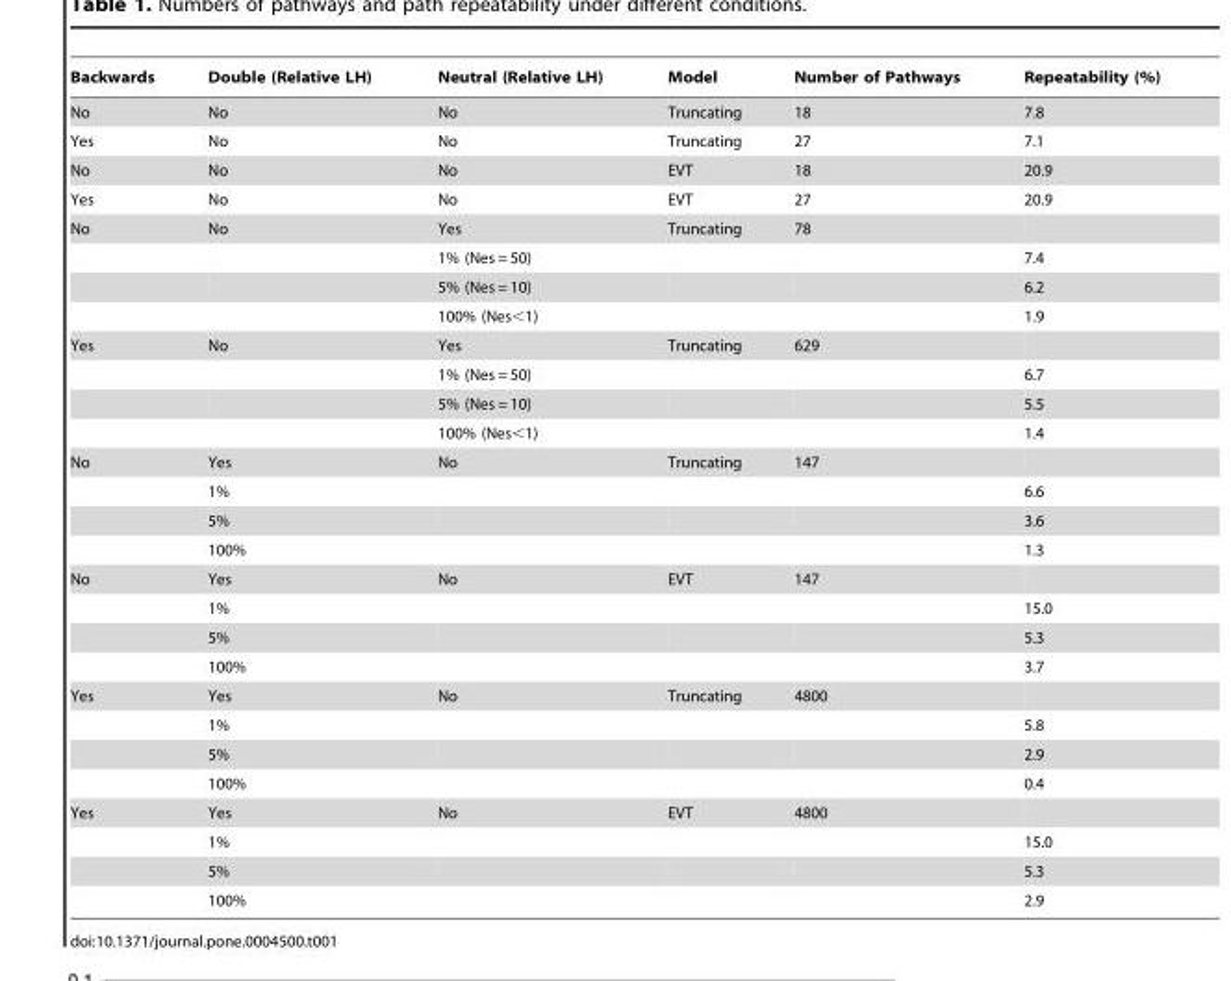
<table><thead><tr><td>Backwards</td><td>Double (Relative LH)</td><td>Neutral (Relative LH)</td><td>Model</td><td>Number of Pathways</td><td>Repeatability (%)</td></tr></thead><tbody><tr><td>No</td><td>No</td><td>No</td><td>Truncating</td><td>18</td><td>7.8</td></tr><tr><td>Yes</td><td>No</td><td>No</td><td>Truncating</td><td>27</td><td>7.1</td></tr><tr><td>No</td><td>No</td><td>No</td><td>EVT</td><td>18</td><td>20.9</td></tr><tr><td>Yes</td><td>No</td><td>No</td><td>EVT</td><td>27</td><td>20.9</td></tr><tr><td rowspan="4">No</td><td>No</td><td>Yes</td><td>Truncating</td><td>78</td><td></td></tr><tr><td></td><td>1% (Nes = 50)</td><td></td><td></td><td>7.4</td></tr><tr><td></td><td>5% (Nes = 10)</td><td></td><td></td><td>6.2</td></tr><tr><td></td><td>100% (Nes&lt;1)</td><td></td><td></td><td>1.9</td></tr><tr><td rowspan="4">Yes</td><td>No</td><td>Yes</td><td>Truncating</td><td>629</td><td></td></tr><tr><td></td><td>1% (Nes = 50)</td><td></td><td></td><td>6.7</td></tr><tr><td></td><td>5% (Nes = 10)</td><td></td><td></td><td>5.5</td></tr><tr><td></td><td>100% (Nes&lt;1)</td><td></td><td></td><td>1.4</td></tr><tr><td rowspan="4">No</td><td>Yes</td><td>No</td><td>Truncating</td><td>147</td><td></td></tr><tr><td>1%</td><td></td><td></td><td></td><td>6.6</td></tr><tr><td>5%</td><td></td><td></td><td></td><td>3.6</td></tr><tr><td>100%</td><td></td><td></td><td></td><td>1.3</td></tr><tr><td rowspan="4">No</td><td>Yes</td><td>No</td><td>EVT</td><td>147</td><td></td></tr><tr><td>1%</td><td></td><td></td><td></td><td>15.0</td></tr><tr><td>5%</td><td></td><td></td><td></td><td>5.3</td></tr><tr><td>100%</td><td></td><td></td><td></td><td>3.7</td></tr><tr><td rowspan="4">Yes</td><td>Yes</td><td>No</td><td>Truncating</td><td>4800</td><td></td></tr><tr><td>1%</td><td></td><td></td><td></td><td>5.8</td></tr><tr><td>5%</td><td></td><td></td><td></td><td>2.9</td></tr><tr><td>100%</td><td></td><td></td><td></td><td>0.4</td></tr><tr><td rowspan="4">Yes</td><td>Yes</td><td>No</td><td>EVT</td><td>4800</td><td></td></tr><tr><td>1%</td><td></td><td></td><td></td><td>15.0</td></tr><tr><td>5%</td><td></td><td></td><td></td><td>5.3</td></tr><tr><td>100%</td><td></td><td></td><td></td><td>2.9</td></tr></tbody></table>